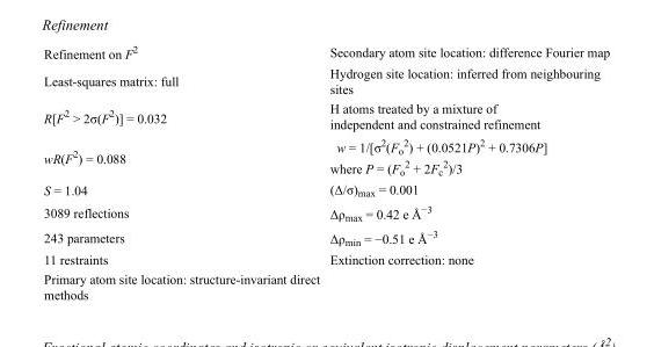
<table><tbody><tr><td>Refinement on F<sup>2</sup></td><td>Secondary atom site location: difference Fourier map</td></tr><tr><td>Least-squares matrix: full</td><td>Hydrogen site location: inferred from neighbouring sites</td></tr><tr><td>R[F<sup>2</sup> &gt; 2σ(F<sup>2</sup>)] = 0.032</td><td>H atoms treated by a mixture of independent and constrained refinement</td></tr><tr><td>wR(F<sup>2</sup>) = 0.088</td><td>w = 1/[σ<sup>2</sup>(F<sub>o</sub> <sup>2</sup>) + (0.0521P)<sup>2</sup> + 0.7306P] where P = (F<sub>o</sub> <sup>2</sup> + 2F<sub>c</sub> <sup>2</sup>)/3</td></tr><tr><td>S = 1.04</td><td>(Δ/σ)<sub>max</sub> = 0.001</td></tr><tr><td>3089 reflections</td><td>Δρ<sub>max</sub> = 0.42 e Å<sup>−3</sup></td></tr><tr><td>243 parameters</td><td>Δρ<sub>min</sub> = −0.51 e Å<sup>−3</sup></td></tr><tr><td>11 restraints</td><td>Extinction correction: none</td></tr><tr><td>Primary atom site location: structure-invariant direct methods</td><td></td></tr></tbody></table>